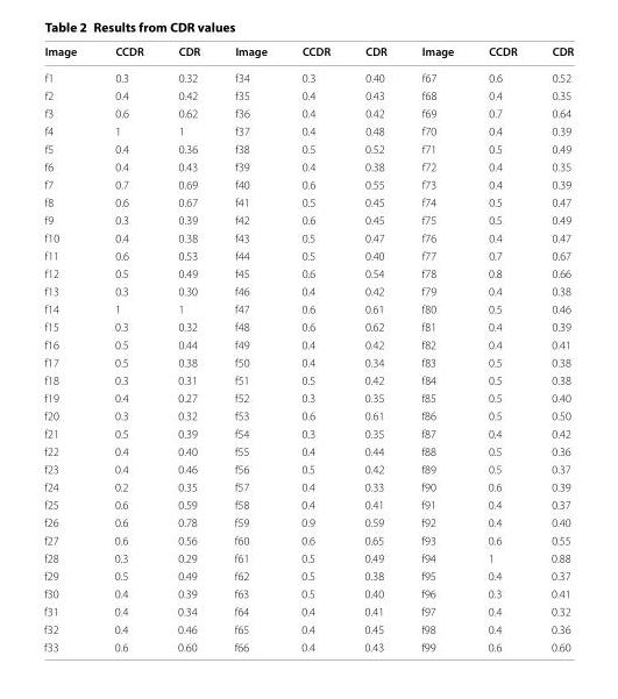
<table><thead><tr><td>Image</td><td>CCDR</td><td>CDR</td><td>Image</td><td>CCDR</td><td>CDR</td><td>Image</td><td>CCDR</td><td>CDR</td></tr></thead><tbody><tr><td>f1</td><td>0.3</td><td>0.32</td><td>f34</td><td>0.3</td><td>0.40</td><td>f67</td><td>0.6</td><td>0.52</td></tr><tr><td>f2</td><td>0.4</td><td>0.42</td><td>f35</td><td>0.4</td><td>0.43</td><td>f68</td><td>0.4</td><td>0.35</td></tr><tr><td>f3</td><td>0.6</td><td>0.62</td><td>f36</td><td>0.4</td><td>0.42</td><td>f69</td><td>0.7</td><td>0.64</td></tr><tr><td>f4</td><td>1</td><td>1</td><td>f37</td><td>0.4</td><td>0.48</td><td>f70</td><td>0.4</td><td>0.39</td></tr><tr><td>f5</td><td>0.4</td><td>0.36</td><td>f38</td><td>0.5</td><td>0.52</td><td>f71</td><td>0.5</td><td>0.49</td></tr><tr><td>f6</td><td>0.4</td><td>0.43</td><td>f39</td><td>0.4</td><td>0.38</td><td>f72</td><td>0.4</td><td>0.35</td></tr><tr><td>f7</td><td>0.7</td><td>0.69</td><td>f40</td><td>0.6</td><td>0.55</td><td>f73</td><td>0.4</td><td>0.39</td></tr><tr><td>f8</td><td>0.6</td><td>0.67</td><td>f41</td><td>0.5</td><td>0.45</td><td>f74</td><td>0.5</td><td>0.47</td></tr><tr><td>f9</td><td>0.3</td><td>0.39</td><td>f42</td><td>0.6</td><td>0.45</td><td>f75</td><td>0.5</td><td>0.49</td></tr><tr><td>f10</td><td>0.4</td><td>0.38</td><td>f43</td><td>0.5</td><td>0.47</td><td>f76</td><td>0.4</td><td>0.47</td></tr><tr><td>f11</td><td>0.6</td><td>0.53</td><td>f44</td><td>0.5</td><td>0.40</td><td>f77</td><td>0.7</td><td>0.67</td></tr><tr><td>f12</td><td>0.5</td><td>0.49</td><td>f45</td><td>0.6</td><td>0.54</td><td>f78</td><td>0.8</td><td>0.66</td></tr><tr><td>f13</td><td>0.3</td><td>0.30</td><td>f46</td><td>0.4</td><td>0.42</td><td>f79</td><td>0.4</td><td>0.38</td></tr><tr><td>f14</td><td>1</td><td>1</td><td>f47</td><td>0.6</td><td>0.61</td><td>f80</td><td>0.5</td><td>0.46</td></tr><tr><td>f15</td><td>0.3</td><td>0.32</td><td>f48</td><td>0.6</td><td>0.62</td><td>f81</td><td>0.4</td><td>0.39</td></tr><tr><td>f16</td><td>0.5</td><td>0.44</td><td>f49</td><td>0.4</td><td>0.42</td><td>f82</td><td>0.4</td><td>0.41</td></tr><tr><td>f17</td><td>0.5</td><td>0.38</td><td>f50</td><td>0.4</td><td>0.34</td><td>f83</td><td>0.5</td><td>0.38</td></tr><tr><td>f18</td><td>0.3</td><td>0.31</td><td>f51</td><td>0.5</td><td>0.42</td><td>f84</td><td>0.5</td><td>0.38</td></tr><tr><td>f19</td><td>0.4</td><td>0.27</td><td>f52</td><td>0.3</td><td>0.35</td><td>f85</td><td>0.5</td><td>0.40</td></tr><tr><td>f20</td><td>0.3</td><td>0.32</td><td>f53</td><td>0.6</td><td>0.61</td><td>f86</td><td>0.5</td><td>0.50</td></tr><tr><td>f21</td><td>0.5</td><td>0.39</td><td>f54</td><td>0.3</td><td>0.35</td><td>f87</td><td>0.4</td><td>0.42</td></tr><tr><td>f22</td><td>0.4</td><td>0.40</td><td>f55</td><td>0.4</td><td>0.44</td><td>f88</td><td>0.5</td><td>0.36</td></tr><tr><td>f23</td><td>0.4</td><td>0.46</td><td>f56</td><td>0.5</td><td>0.42</td><td>f89</td><td>0.5</td><td>0.37</td></tr><tr><td>f24</td><td>0.2</td><td>0.35</td><td>f57</td><td>0.4</td><td>0.33</td><td>f90</td><td>0.6</td><td>0.39</td></tr><tr><td>f25</td><td>0.6</td><td>0.59</td><td>f58</td><td>0.4</td><td>0.41</td><td>f91</td><td>0.4</td><td>0.37</td></tr><tr><td>f26</td><td>0.6</td><td>0.78</td><td>f59</td><td>0.9</td><td>0.59</td><td>f92</td><td>0.4</td><td>0.40</td></tr><tr><td>f27</td><td>0.6</td><td>0.56</td><td>f60</td><td>0.6</td><td>0.65</td><td>f93</td><td>0.6</td><td>0.55</td></tr><tr><td>f28</td><td>0.3</td><td>0.29</td><td>f61</td><td>0.5</td><td>0.49</td><td>f94</td><td>1</td><td>0.88</td></tr><tr><td>f29</td><td>0.5</td><td>0.49</td><td>f62</td><td>0.5</td><td>0.38</td><td>f95</td><td>0.4</td><td>0.37</td></tr><tr><td>f30</td><td>0.4</td><td>0.39</td><td>f63</td><td>0.5</td><td>0.40</td><td>f96</td><td>0.3</td><td>0.41</td></tr><tr><td>f31</td><td>0.4</td><td>0.34</td><td>f64</td><td>0.4</td><td>0.41</td><td>f97</td><td>0.4</td><td>0.32</td></tr><tr><td>f32</td><td>0.4</td><td>0.46</td><td>f65</td><td>0.4</td><td>0.45</td><td>f98</td><td>0.4</td><td>0.36</td></tr><tr><td>f33</td><td>0.6</td><td>0.60</td><td>f66</td><td>0.4</td><td>0.43</td><td>f99</td><td>0.6</td><td>0.60</td></tr></tbody></table>